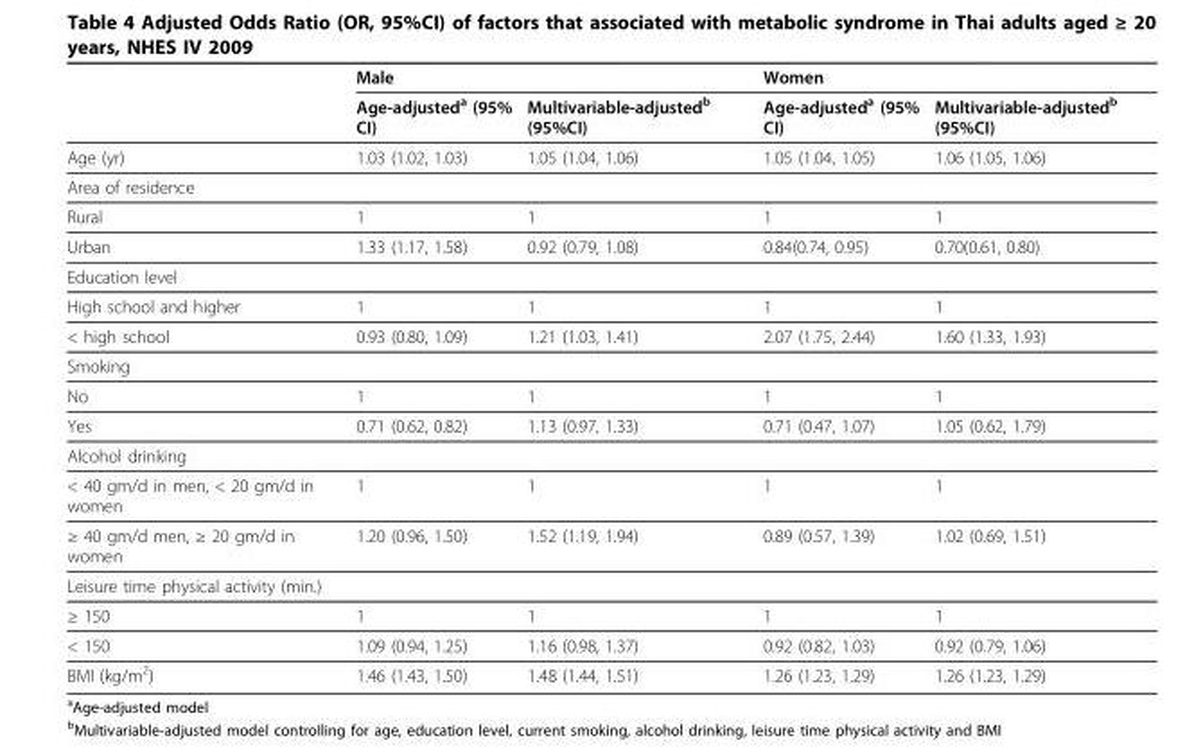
<table><thead><tr><td rowspan="2"></td><td colspan="2">Male</td><td colspan="2">Women</td></tr><tr><td>Age-adjusted<sup>a</sup> (95% CI)</td><td>Multivariable-adjusted<sup>b</sup> (95%CI)</td><td>Age-adjusted<sup>a</sup> (95% CI)</td><td>Multivariable-adjusted<sup>b</sup> (95%CI)</td></tr></thead><tbody><tr><td>Age (yr)</td><td>1.03 (1.02, 1.03)</td><td>1.05 (1.04, 1.06)</td><td>1.05 (1.04, 1.05)</td><td>1.06 (1.05, 1.06)</td></tr><tr><td colspan="5">Area of residence</td></tr><tr><td>Rural</td><td>1</td><td>1</td><td>1</td><td>1</td></tr><tr><td>Urban</td><td>1.33 (1.17, 1.58)</td><td>0.92 (0.79, 1.08)</td><td>0.84(0.74, 0.95)</td><td>0.70(0.61, 0.80)</td></tr><tr><td colspan="5">Education level</td></tr><tr><td>High school and higher</td><td>1</td><td>1</td><td>1</td><td>1</td></tr><tr><td>&lt; high school</td><td>0.93 (0.80, 1.09)</td><td>1.21 (1.03, 1.41)</td><td>2.07 (1.75, 2.44)</td><td>1.60 (1.33, 1.93)</td></tr><tr><td colspan="5">Smoking</td></tr><tr><td>No</td><td>1</td><td>1</td><td>1</td><td>1</td></tr><tr><td>Yes</td><td>0.71 (0.62, 0.82)</td><td>1.13 (0.97, 1.33)</td><td>0.71 (0.47, 1.07)</td><td>1.05 (0.62, 1.79)</td></tr><tr><td colspan="5">Alcohol drinking</td></tr><tr><td>&lt; 40 gm/d in men, &lt; 20 gm/d in women</td><td>1</td><td>1</td><td>1</td><td>1</td></tr><tr><td>≥ 40 gm/d men, ≥ 20 gm/d in women</td><td>1.20 (0.96, 1.50)</td><td>1.52 (1.19, 1.94)</td><td>0.89 (0.57, 1.39)</td><td>1.02 (0.69, 1.51)</td></tr><tr><td colspan="5">Leisure time physical activity (min.)</td></tr><tr><td>≥ 150</td><td>1</td><td>1</td><td>1</td><td>1</td></tr><tr><td>&lt; 150</td><td>1.09 (0.94, 1.25)</td><td>1.16 (0.98, 1.37)</td><td>0.92 (0.82, 1.03)</td><td>0.92 (0.79, 1.06)</td></tr><tr><td>BMI (kg/m<sup>2</sup>)</td><td>1.46 (1.43, 1.50)</td><td>1.48 (1.44, 1.51)</td><td>1.26 (1.23, 1.29)</td><td>1.26 (1.23, 1.29)</td></tr></tbody></table>